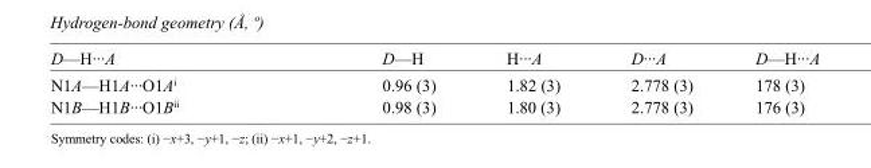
<table><tbody><tr><td>D—H···A</td><td>D—H</td><td>H···A</td><td>D···A</td><td>D—H···A</td></tr><tr><td>N1A—H1A···O1A<sup>i</sup></td><td>0.96 (3)</td><td>1.82 (3)</td><td>2.778 (3)</td><td>178 (3)</td></tr><tr><td>N1B—H1B···O1B<sup>ii</sup></td><td>0.98 (3)</td><td>1.80 (3)</td><td>2.778 (3)</td><td>176 (3)</td></tr></tbody></table>